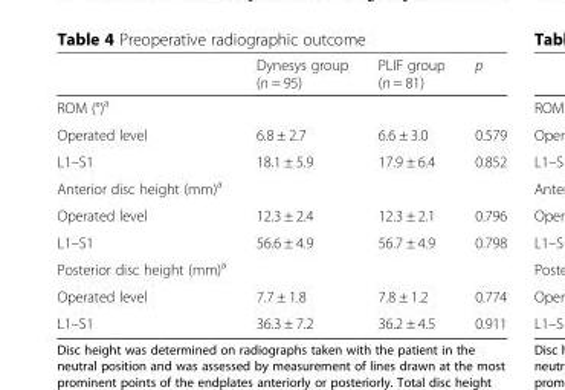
<table><thead><tr><td></td><td>Dynesys group (n = 95)</td><td>PLIF group (n = 81)</td><td>p</td></tr></thead><tbody><tr><td colspan="4">ROM (°)<sup>a</sup></td></tr><tr><td>Operated level</td><td>6.8 ± 2.7</td><td>6.6 ± 3.0</td><td>0.579</td></tr><tr><td>L1–S1</td><td>18.1 ± 5.9</td><td>17.9 ± 6.4</td><td>0.852</td></tr><tr><td colspan="4">Anterior disc height (mm)<sup>a</sup></td></tr><tr><td>Operated level</td><td>12.3 ± 2.4</td><td>12.3 ± 2.1</td><td>0.796</td></tr><tr><td>L1–S1</td><td>56.6 ± 4.9</td><td>56.7 ± 4.9</td><td>0.798</td></tr><tr><td colspan="4">Posterior disc height (mm)<sup>a</sup></td></tr><tr><td>Operated level</td><td>7.7 ± 1.8</td><td>7.8 ± 1.2</td><td>0.774</td></tr><tr><td>L1–S1</td><td>36.3 ± 7.2</td><td>36.2 ± 4.5</td><td>0.911</td></tr></tbody></table>